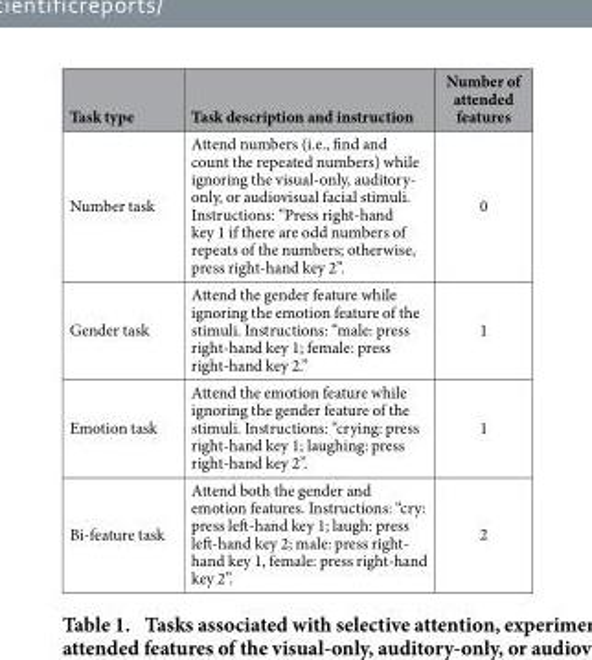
<table><thead><tr><td>Task type</td><td>Task description and instruction</td><td>Number of attended features</td></tr></thead><tbody><tr><td>Number task</td><td>Attend numbers (i.e., find and count the repeated numbers) while ignoring the visual-only, auditory- only, or audiovisual facial stimuli. Instructions: “Press right-hand key 1 if there are odd numbers of repeats of the numbers; otherwise, press right-hand key 2”.</td><td>0</td></tr><tr><td>Gender task</td><td>Attend the gender feature while ignoring the emotion feature of the stimuli. Instructions: “male: press right-hand key 1; female: press right-hand key 2.”</td><td>1</td></tr><tr><td>Emotion task</td><td>Attend the emotion feature while ignoring the gender feature of the stimuli. Instructions: “crying: press right-hand key 1; laughing: press right-hand key 2”.</td><td>1</td></tr><tr><td>Bi-feature task</td><td>Attend both the gender and emotion features. Instructions: “cry: press left-hand key 1; laugh: press left-hand key 2; male: press right- hand key 1, female: press right-hand key 2”.</td><td>2</td></tr></tbody></table>